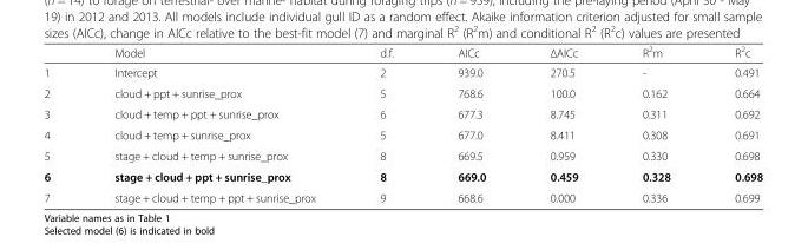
<table><thead><tr><td></td><td>Model</td><td>d.f.</td><td>AICc</td><td>ΔAICc</td><td>R<sup>2</sup>m</td><td>R<sup>2</sup>c</td></tr></thead><tbody><tr><td>1</td><td>Intercept</td><td>2</td><td>939.0</td><td>270.5</td><td>-</td><td>0.491</td></tr><tr><td>2</td><td>cloud + ppt + sunrise_prox</td><td>5</td><td>768.6</td><td>100.0</td><td>0.162</td><td>0.664</td></tr><tr><td>3</td><td>cloud + temp + ppt + sunrise_prox</td><td>6</td><td>677.3</td><td>8.745</td><td>0.311</td><td>0.692</td></tr><tr><td>4</td><td>cloud + temp + sunrise_prox</td><td>5</td><td>677.0</td><td>8.411</td><td>0.308</td><td>0.691</td></tr><tr><td>5</td><td>stage + cloud + temp + sunrise_prox</td><td>8</td><td>669.5</td><td>0.959</td><td>0.330</td><td>0.698</td></tr><tr><td>6</td><td>stage + cloud + ppt + sunrise_prox</td><td>8</td><td>669.0</td><td>0.459</td><td>0.328</td><td>0.698</td></tr><tr><td>7</td><td>stage + cloud + temp + ppt + sunrise_prox</td><td>9</td><td>668.6</td><td>0.000</td><td>0.336</td><td>0.699</td></tr></tbody></table>